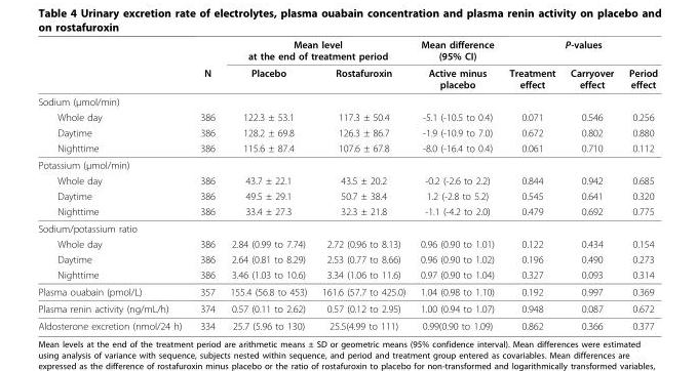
<table><thead><tr><td rowspan="2"></td><td rowspan="2">N</td><td colspan="2">Mean level at the end of treatment period</td><td rowspan="2">Mean difference (95% CI) Active minus placebo</td><td colspan="3">P-values</td></tr><tr><td>Placebo</td><td>Rostafuroxin</td><td>Treatment effect</td><td>Carryover effect</td><td>Period effect</td></tr></thead><tbody><tr><td colspan="8">Sodium (μmol/min)</td></tr><tr><td>Whole day</td><td>386</td><td>122.3 ± 53.1</td><td>117.3 ± 50.4</td><td>-5.1 (-10.5 to 0.4)</td><td>0.071</td><td>0.546</td><td>0.256</td></tr><tr><td>Daytime</td><td>386</td><td>128.2 ± 69.8</td><td>126.3 ± 86.7</td><td>-1.9 (-10.9 to 7.0)</td><td>0.672</td><td>0.802</td><td>0.880</td></tr><tr><td>Nighttime</td><td>386</td><td>115.6 ± 87.4</td><td>107.6 ± 67.8</td><td>-8.0 (-16.4 to 0.4)</td><td>0.061</td><td>0.710</td><td>0.112</td></tr><tr><td colspan="8">Potassium (μmol/min)</td></tr><tr><td>Whole day</td><td>386</td><td>43.7 ± 22.1</td><td>43.5 ± 20.2</td><td>-0.2 (-2.6 to 2.2)</td><td>0.844</td><td>0.942</td><td>0.685</td></tr><tr><td>Daytime</td><td>386</td><td>49.5 ± 29.1</td><td>50.7 ± 38.4</td><td>1.2 (-2.8 to 5.2)</td><td>0.545</td><td>0.641</td><td>0.320</td></tr><tr><td>Nighttime</td><td>386</td><td>33.4 ± 27.3</td><td>32.3 ± 21.8</td><td>-1.1 (-4.2 to 2.0)</td><td>0.479</td><td>0.692</td><td>0.775</td></tr><tr><td colspan="8">Sodium/potassium ratio</td></tr><tr><td>Whole day</td><td>386</td><td>2.84 (0.99 to 7.74)</td><td>2.72 (0.96 to 8.13)</td><td>0.96 (0.90 to 1.01)</td><td>0.122</td><td>0.434</td><td>0.154</td></tr><tr><td>Daytime</td><td>386</td><td>2.64 (0.81 to 8.29)</td><td>2.53 (0.77 to 8.66)</td><td>0.96 (0.90 to 1.02)</td><td>0.196</td><td>0.490</td><td>0.273</td></tr><tr><td>Nighttime</td><td>386</td><td>3.46 (1.03 to 10.6)</td><td>3.34 (1.06 to 11.6)</td><td>0.97 (0.90 to 1.04)</td><td>0.327</td><td>0.093</td><td>0.314</td></tr><tr><td>Plasma ouabain (pmol/L)</td><td>357</td><td>155.4 (56.8 to 453)</td><td>161.6 (57.7 to 425.0)</td><td>1.04 (0.98 to 1.10)</td><td>0.192</td><td>0.997</td><td>0.369</td></tr><tr><td>Plasma renin activity (ng/mL/h)</td><td>374</td><td>0.57 (0.11 to 2.62)</td><td>0.57 (0.12 to 2.95)</td><td>1.00 (0.94 to 1.07)</td><td>0.948</td><td>0.087</td><td>0.672</td></tr><tr><td>Aldosterone excretion (nmol/24 h)</td><td>334</td><td>25.7 (5.96 to 130)</td><td>25.5(4.99 to 111)</td><td>0.99(0.90 to 1.09)</td><td>0.862</td><td>0.366</td><td>0.377</td></tr></tbody></table>